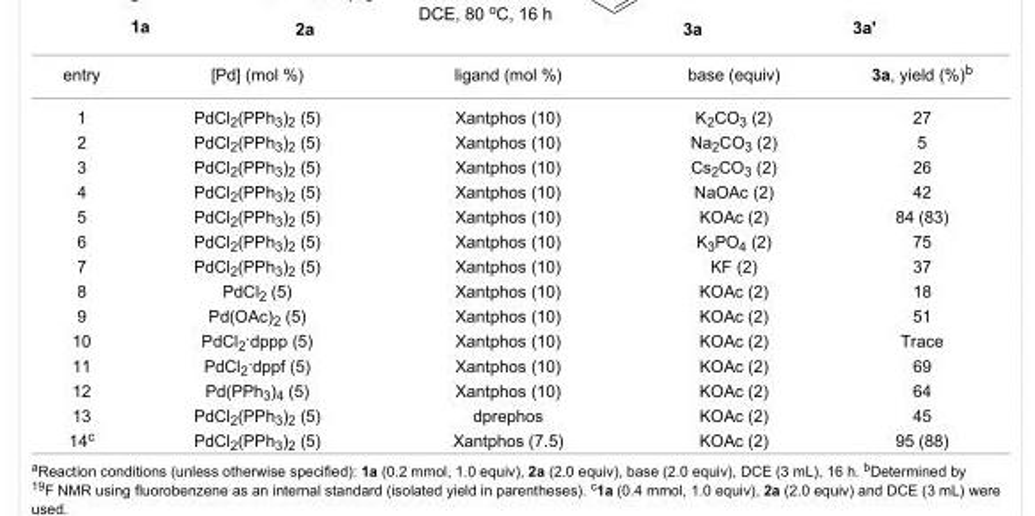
<table><tbody><tr><td>entry</td><td>[Pd] (mol %)</td><td>ligand (mol %)</td><td>base (equiv)</td><td>3a, yield (%)<sup>b</sup></td></tr><tr><td>1</td><td>PdCl<sub>2</sub>(PPh<sub>3</sub>)<sub>2</sub> (5)</td><td>Xantphos (10)</td><td>K<sub>2</sub>CO<sub>3</sub> (2)</td><td>27</td></tr><tr><td>2</td><td>PdCl<sub>2</sub>(PPh<sub>3</sub>)<sub>2</sub> (5)</td><td>Xantphos (10)</td><td>Na<sub>2</sub>CO<sub>3</sub> (2)</td><td>5</td></tr><tr><td>3</td><td>PdCl<sub>2</sub>(PPh<sub>3</sub>)<sub>2</sub> (5)</td><td>Xantphos (10)</td><td>Cs<sub>2</sub>CO<sub>3</sub> (2)</td><td>26</td></tr><tr><td>4</td><td>PdCl<sub>2</sub>(PPh<sub>3</sub>)<sub>2</sub> (5)</td><td>Xantphos (10)</td><td>NaOAc (2)</td><td>42</td></tr><tr><td>5</td><td>PdCl<sub>2</sub>(PPh<sub>3</sub>)<sub>2</sub> (5)</td><td>Xantphos (10)</td><td>KOAc (2)</td><td>84 (83)</td></tr><tr><td>6</td><td>PdCl<sub>2</sub>(PPh<sub>3</sub>)<sub>2</sub> (5)</td><td>Xantphos (10)</td><td>K<sub>3</sub>PO<sub>4</sub> (2)</td><td>75</td></tr><tr><td>7</td><td>PdCl<sub>2</sub>(PPh<sub>3</sub>)<sub>2</sub> (5)</td><td>Xantphos (10)</td><td>KF (2)</td><td>37</td></tr><tr><td>8</td><td>PdCl<sub>2</sub> (5)</td><td>Xantphos (10)</td><td>KOAc (2)</td><td>18</td></tr><tr><td>9</td><td>Pd(OAc)<sub>2</sub> (5)</td><td>Xantphos (10)</td><td>KOAc (2)</td><td>51</td></tr><tr><td>10</td><td>PdCl<sub>2</sub>·dppp (5)</td><td>Xantphos (10)</td><td>KOAc (2)</td><td>Trace</td></tr><tr><td>11</td><td>PdCl<sub>2</sub>·dppf (5)</td><td>Xantphos (10)</td><td>KOAc (2)</td><td>69</td></tr><tr><td>12</td><td>Pd(PPh<sub>3</sub>)<sub>4</sub> (5)</td><td>Xantphos (10)</td><td>KOAc (2)</td><td>64</td></tr><tr><td>13</td><td>PdCl<sub>2</sub>(PPh<sub>3</sub>)<sub>2</sub> (5)</td><td>dprephos</td><td>KOAc (2)</td><td>45</td></tr><tr><td>14<sup>c</sup></td><td>PdCl<sub>2</sub>(PPh<sub>3</sub>)<sub>2</sub> (5)</td><td>Xantphos (7.5)</td><td>KOAc (2)</td><td>95 (88)</td></tr></tbody></table>